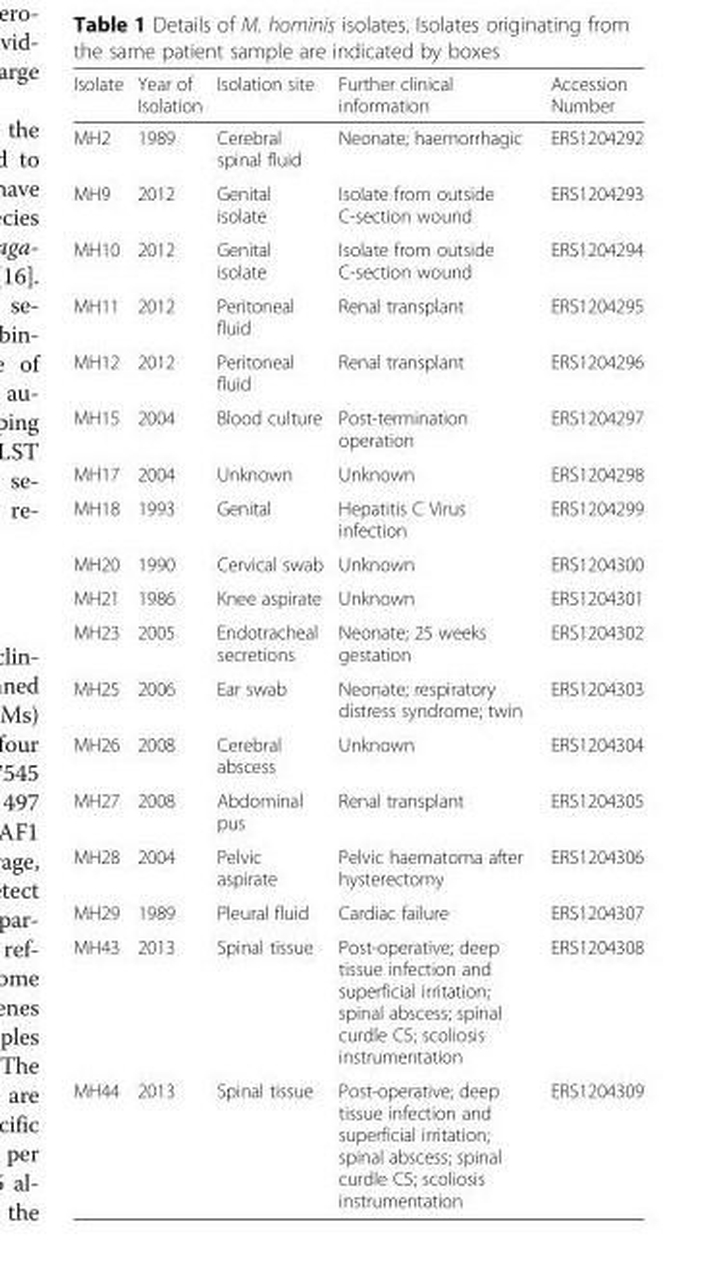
<table><thead><tr><td>Isolate</td><td>Year of Isolation</td><td>Isolation site</td><td>Further clinical information</td><td>Accession Number</td></tr></thead><tbody><tr><td>MH2</td><td>1989</td><td>Cerebral spinal fluid</td><td>Neonate; haemorrhagic</td><td>ERS1204292</td></tr><tr><td>MH9</td><td>2012</td><td>Genital isolate</td><td>Isolate from outside C-section wound</td><td>ERS1204293</td></tr><tr><td>MH10</td><td>2012</td><td>Genital isolate</td><td>Isolate from outside C-section wound</td><td>ERS1204294</td></tr><tr><td>MH11</td><td>2012</td><td>Peritoneal fluid</td><td>Renal transplant</td><td>ERS1204295</td></tr><tr><td>MH12</td><td>2012</td><td>Peritoneal fluid</td><td>Renal transplant</td><td>ERS1204296</td></tr><tr><td>MH15</td><td>2004</td><td>Blood culture</td><td>Post-termination operation</td><td>ERS1204297</td></tr><tr><td>MH17</td><td>2004</td><td>Unknown</td><td>Unknown</td><td>ERS1204298</td></tr><tr><td>MH18</td><td>1993</td><td>Genital</td><td>Hepatitis C Virus infection</td><td>ERS1204299</td></tr><tr><td>MH20</td><td>1990</td><td>Cervical swab</td><td>Unknown</td><td>ERS1204300</td></tr><tr><td>MH21</td><td>1986</td><td>Knee aspirate</td><td>Unknown</td><td>ERS1204301</td></tr><tr><td>MH23</td><td>2005</td><td>Endotracheal secretions</td><td>Neonate; 25 weeks gestation</td><td>ERS1204302</td></tr><tr><td>MH25</td><td>2006</td><td>Ear swab</td><td>Neonate; respiratory distress syndrome; twin</td><td>ERS1204303</td></tr><tr><td>MH26</td><td>2008</td><td>Cerebral abscess</td><td>Unknown</td><td>ERS1204304</td></tr><tr><td>MH27</td><td>2008</td><td>Abdominal pus</td><td>Renal transplant</td><td>ERS1204305</td></tr><tr><td>MH28</td><td>2004</td><td>Pelvic aspirate</td><td>Pelvic haematoma after hysterectomy</td><td>ERS1204306</td></tr><tr><td>MH29</td><td>1989</td><td>Pleural fluid</td><td>Cardiac failure</td><td>ERS1204307</td></tr><tr><td>MH43</td><td>2013</td><td>Spinal tissue</td><td>Post-operative; deep tissue infection and superficial irritation; spinal abscess; spinal curdle C5; scoliosis instrumentation</td><td>ERS1204308</td></tr><tr><td>MH44</td><td>2013</td><td>Spinal tissue</td><td>Post-operative; deep tissue infection and superficial irritation; spinal abscess; spinal curdle C5; scoliosis instrumentation</td><td>ERS1204309</td></tr></tbody></table>